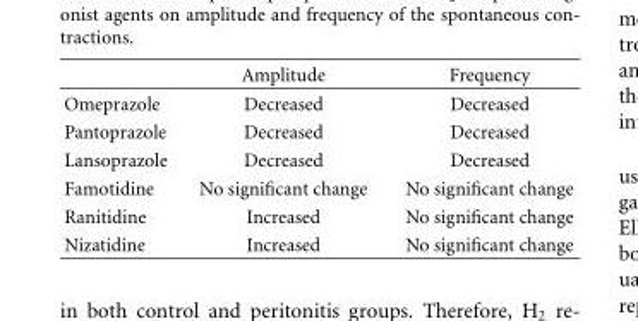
<table><thead><tr><td></td><td>Amplitude</td><td>Frequency</td></tr></thead><tbody><tr><td>Omeprazole</td><td>Decreased</td><td>Decreased</td></tr><tr><td>Pantoprazole</td><td>Decreased</td><td>Decreased</td></tr><tr><td>Lansoprazole</td><td>Decreased</td><td>Decreased</td></tr><tr><td>Famotidine</td><td>No significant change</td><td>No significant change</td></tr><tr><td>Ranitidine</td><td>Increased</td><td>No significant change</td></tr><tr><td>Nizatidine</td><td>Increased</td><td>No significant change</td></tr></tbody></table>